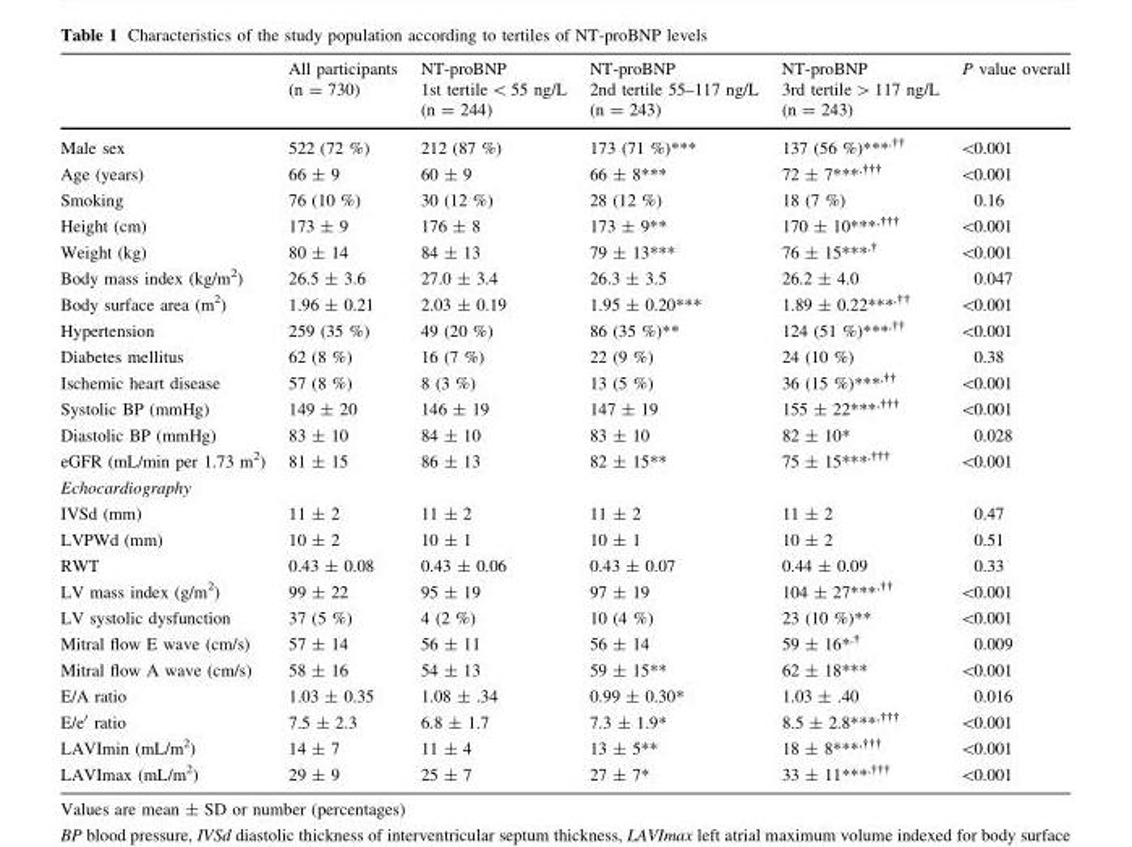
<table><thead><tr><td></td><td>All participants (n = 730)</td><td>NT-proBNP 1st tertile &lt; 55 ng/L (n = 244)</td><td>NT-proBNP 2nd tertile 55–117 ng/L (n = 243)</td><td>NT-proBNP 3rd tertile &gt; 117 ng/L (n = 243)</td><td>P value overall</td></tr></thead><tbody><tr><td>Male sex</td><td>522 (72 %)</td><td>212 (87 %)</td><td>173 (71 %)***</td><td>137 (56 %)***<sup>,††</sup></td><td>&lt;0.001</td></tr><tr><td>Age (years)</td><td>66 ± 9</td><td>60 ± 9</td><td>66 ± 8***</td><td>72 ± 7***<sup>,†††</sup></td><td>&lt;0.001</td></tr><tr><td>Smoking</td><td>76 (10 %)</td><td>30 (12 %)</td><td>28 (12 %)</td><td>18 (7 %)</td><td>0.16</td></tr><tr><td>Height (cm)</td><td>173 ± 9</td><td>176 ± 8</td><td>173 ± 9**</td><td>170 ± 10***<sup>,†††</sup></td><td>&lt;0.001</td></tr><tr><td>Weight (kg)</td><td>80 ± 14</td><td>84 ± 13</td><td>79 ± 13***</td><td>76 ± 15***<sup>,†</sup></td><td>&lt;0.001</td></tr><tr><td>Body mass index (kg/m<sup>2</sup>)</td><td>26.5 ± 3.6</td><td>27.0 ± 3.4</td><td>26.3 ± 3.5</td><td>26.2 ± 4.0</td><td>0.047</td></tr><tr><td>Body surface area (m<sup>2</sup>)</td><td>1.96 ± 0.21</td><td>2.03 ± 0.19</td><td>1.95 ± 0.20***</td><td>1.89 ± 0.22***<sup>,††</sup></td><td>&lt;0.001</td></tr><tr><td>Hypertension</td><td>259 (35 %)</td><td>49 (20 %)</td><td>86 (35 %)**</td><td>124 (51 %)***<sup>,††</sup></td><td>&lt;0.001</td></tr><tr><td>Diabetes mellitus</td><td>62 (8 %)</td><td>16 (7 %)</td><td>22 (9 %)</td><td>24 (10 %)</td><td>0.38</td></tr><tr><td>Ischemic heart disease</td><td>57 (8 %)</td><td>8 (3 %)</td><td>13 (5 %)</td><td>36 (15 %)***<sup>,††</sup></td><td>&lt;0.001</td></tr><tr><td>Systolic BP (mmHg)</td><td>149 ± 20</td><td>146 ± 19</td><td>147 ± 19</td><td>155 ± 22***<sup>,†††</sup></td><td>&lt;0.001</td></tr><tr><td>Diastolic BP (mmHg)</td><td>83 ± 10</td><td>84 ± 10</td><td>83 ± 10</td><td>82 ± 10*</td><td>0.028</td></tr><tr><td>eGFR (mL/min per 1.73 m<sup>2</sup>)</td><td>81 ± 15</td><td>86 ± 13</td><td>82 ± 15**</td><td>75 ± 15***<sup>,†††</sup></td><td>&lt;0.001</td></tr><tr><td colspan="6">Echocardiography</td></tr><tr><td>IVSd (mm)</td><td>11 ± 2</td><td>11 ± 2</td><td>11 ± 2</td><td>11 ± 2</td><td>0.47</td></tr><tr><td>LVPWd (mm)</td><td>10 ± 2</td><td>10 ± 1</td><td>10 ± 1</td><td>10 ± 2</td><td>0.51</td></tr><tr><td>RWT</td><td>0.43 ± 0.08</td><td>0.43 ± 0.06</td><td>0.43 ± 0.07</td><td>0.44 ± 0.09</td><td>0.33</td></tr><tr><td>LV mass index (g/m<sup>2</sup>)</td><td>99 ± 22</td><td>95 ± 19</td><td>97 ± 19</td><td>104 ± 27***<sup>,††</sup></td><td>&lt;0.001</td></tr><tr><td>LV systolic dysfunction</td><td>37 (5 %)</td><td>4 (2 %)</td><td>10 (4 %)</td><td>23 (10 %)**</td><td>&lt;0.001</td></tr><tr><td>Mitral flow E wave (cm/s)</td><td>57 ± 14</td><td>56 ± 11</td><td>56 ± 14</td><td>59 ± 16*<sup>,†</sup></td><td>0.009</td></tr><tr><td>Mitral flow A wave (cm/s)</td><td>58 ± 16</td><td>54 ± 13</td><td>59 ± 15**</td><td>62 ± 18***</td><td>&lt;0.001</td></tr><tr><td>E/A ratio</td><td>1.03 ± 0.35</td><td>1.08 ± .34</td><td>0.99 ± 0.30*</td><td>1.03 ± .40</td><td>0.016</td></tr><tr><td>E/e′ ratio</td><td>7.5 ± 2.3</td><td>6.8 ± 1.7</td><td>7.3 ± 1.9*</td><td>8.5 ± 2.8***<sup>,†††</sup></td><td>&lt;0.001</td></tr><tr><td>LAVImin (mL/m<sup>2</sup>)</td><td>14 ± 7</td><td>11 ± 4</td><td>13 ± 5**</td><td>18 ± 8***<sup>,†††</sup></td><td>&lt;0.001</td></tr><tr><td>LAVImax (mL/m<sup>2</sup>)</td><td>29 ± 9</td><td>25 ± 7</td><td>27 ± 7*</td><td>33 ± 11***<sup>,†††</sup></td><td>&lt;0.001</td></tr></tbody></table>